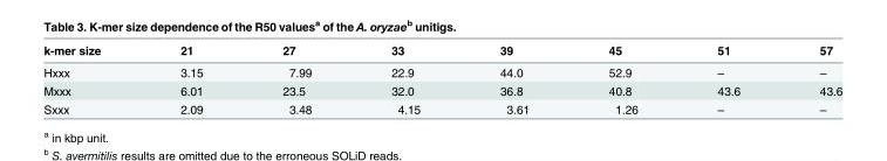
<table><thead><tr><td>k-mer size</td><td>21</td><td>27</td><td>33</td><td>39</td><td>45</td><td>51</td><td>57</td></tr></thead><tbody><tr><td>Hxxx</td><td>3.15</td><td>7.99</td><td>22.9</td><td>44.0</td><td>52.9</td><td>–</td><td>–</td></tr><tr><td>Mxxx</td><td>6.01</td><td>23.5</td><td>32.0</td><td>36.8</td><td>40.8</td><td>43.6</td><td>43.6</td></tr><tr><td>Sxxx</td><td>2.09</td><td>3.48</td><td>4.15</td><td>3.61</td><td>1.26</td><td>–</td><td>–</td></tr></tbody></table>